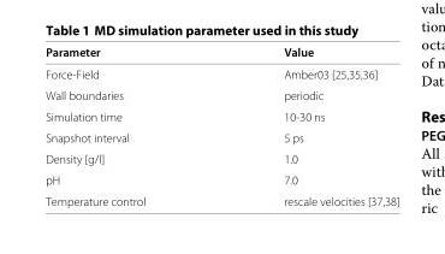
<table><thead><tr><td>Parameter</td><td>Value</td></tr></thead><tbody><tr><td>Force-Field</td><td>Amber03 [25,35,36]</td></tr><tr><td>Wall boundaries</td><td>periodic</td></tr><tr><td>Simulation time</td><td>10-30 ns</td></tr><tr><td>Snapshot interval</td><td>5 ps</td></tr><tr><td>Density [g/l]</td><td>1.0</td></tr><tr><td>pH</td><td>7.0</td></tr><tr><td>Temperature control</td><td>rescale velocities [37,38]</td></tr></tbody></table>